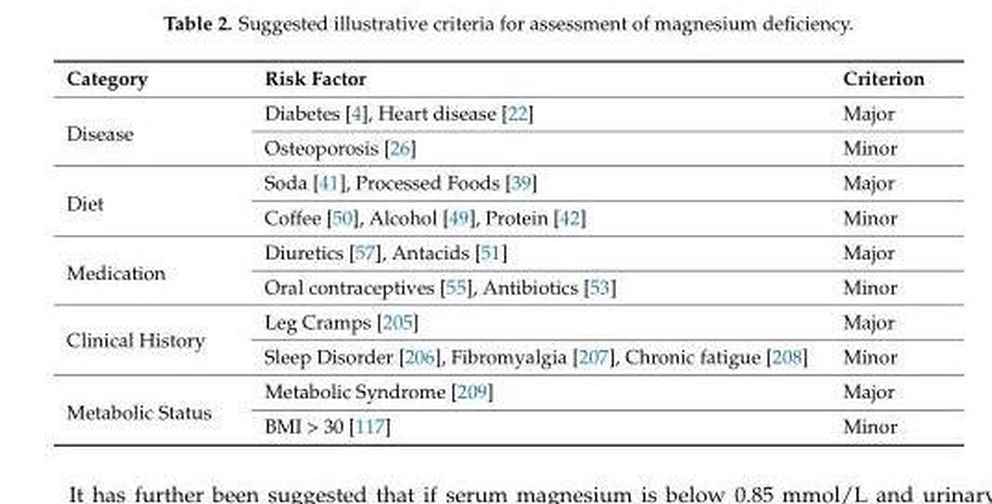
<table><thead><tr><td>Category</td><td>Risk Factor</td><td>Criterion</td></tr></thead><tbody><tr><td rowspan="2">Disease</td><td>Diabetes [4], Heart disease [22]</td><td>Major</td></tr><tr><td>Osteoporosis [26]</td><td>Minor</td></tr><tr><td rowspan="2">Diet</td><td>Soda [41], Processed Foods [39]</td><td>Major</td></tr><tr><td>Coffee [50], Alcohol [49], Protein [42]</td><td>Minor</td></tr><tr><td rowspan="2">Medication</td><td>Diuretics [57], Antacids [51]</td><td>Major</td></tr><tr><td>Oral contraceptives [55], Antibiotics [53]</td><td>Minor</td></tr><tr><td rowspan="2">Clinical History</td><td>Leg Cramps [205]</td><td>Major</td></tr><tr><td>Sleep Disorder [206], Fibromyalgia [207], Chronic fatigue [208]</td><td>Minor</td></tr><tr><td rowspan="2">Metabolic Status</td><td>Metabolic Syndrome [209]</td><td>Major</td></tr><tr><td>BMI &gt; 30 [117]</td><td>Minor</td></tr></tbody></table>